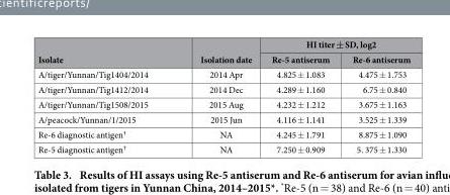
<table><thead><tr><td rowspan="2">Isolate</td><td rowspan="2">Isolation date</td><td colspan="2">HI titer ± SD, log2</td></tr><tr><td>Re-5 antiserum</td><td>Re-6 antiserum</td></tr></thead><tbody><tr><td>A/tiger/Yunnan/Tig1404/2014</td><td>2014 Apr</td><td>4.825 ± 1.083</td><td>4.475 ± 1.753</td></tr><tr><td>A/tiger/Yunnan/Tig1412/2014</td><td>2014 Dec</td><td>4.289 ± 1.160</td><td>6.75 ± 0.840</td></tr><tr><td>A/tiger/Yunnan/Tig1508/2015</td><td>2015 Aug</td><td>4.232 ± 1.212</td><td>3.675 ± 1.163</td></tr><tr><td>A/peacock/Yunnan/1/2015</td><td>2015 Jun</td><td>4.116 ± 1.141</td><td>3.525 ± 1.339</td></tr><tr><td>Re-6 diagnostic antigen†</td><td>NA</td><td>4.245 ± 1.791</td><td>8.875 ± 1.090</td></tr><tr><td>Re-5 diagnostic antigen†</td><td>NA</td><td>7.250 ± 0.909</td><td>5. 375 ± 1.330</td></tr></tbody></table>